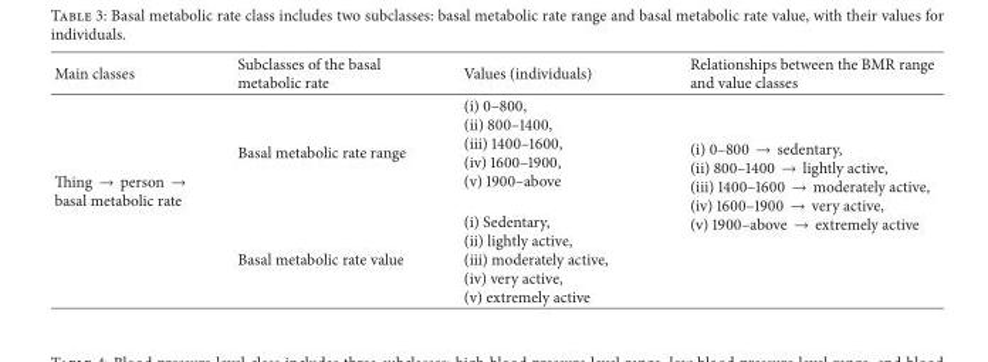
<table><thead><tr><td>Main classes</td><td>Subclasses of the basal metabolic rate</td><td>Values (individuals)</td><td>Relationships between the BMR range and value classes</td></tr></thead><tbody><tr><td rowspan="2">Thing → person → basal metabolic rate</td><td>Basal metabolic rate range</td><td>(i) 0–800, (ii) 800–1400, (iii) 1400–1600, (iv) 1600–1900, (v) 1900–above</td><td rowspan="2">(i) 0–800 → sedentary, (ii) 800–1400 → lightly active, (iii) 1400–1600 → moderately active, (iv) 1600–1900 → very active, (v) 1900–above → extremely active</td></tr><tr><td>Basal metabolic rate value</td><td>(i) Sedentary, (ii) lightly active, (iii) moderately active, (iv) very active, (v) extremely active</td></tr></tbody></table>